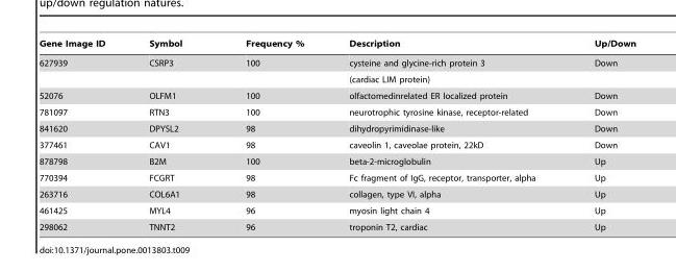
<table><thead><tr><td>Gene Image ID</td><td>Symbol</td><td>Frequency %</td><td>Description</td><td>Up/Down</td></tr></thead><tbody><tr><td rowspan="2">627939</td><td>CSRP3</td><td>100</td><td>cysteine and glycine-rich protein 3</td><td>Down</td></tr><tr><td></td><td></td><td>(cardiac LIM protein)</td><td></td></tr><tr><td>52076</td><td>OLFM1</td><td>100</td><td>olfactomedinrelated ER localized protein</td><td>Down</td></tr><tr><td>781097</td><td>RTN3</td><td>100</td><td>neurotrophic tyrosine kinase, receptor-related</td><td>Down</td></tr><tr><td>841620</td><td>DPYSL2</td><td>98</td><td>dihydropyrimidinase-like</td><td>Down</td></tr><tr><td>377461</td><td>CAV1</td><td>98</td><td>caveolin 1, caveolae protein, 22kD</td><td>Down</td></tr><tr><td>878798</td><td>B2M</td><td>100</td><td>beta-2-microglobulin</td><td>Up</td></tr><tr><td>770394</td><td>FCGRT</td><td>98</td><td>Fc fragment of IgG, receptor, transporter, alpha</td><td>Up</td></tr><tr><td>263716</td><td>COL6A1</td><td>98</td><td>collagen, type VI, alpha</td><td>Up</td></tr><tr><td>461425</td><td>MYL4</td><td>96</td><td>myosin light chain 4</td><td>Up</td></tr><tr><td>298062</td><td>TNNT2</td><td>96</td><td>troponin T2, cardiac</td><td>Up</td></tr></tbody></table>